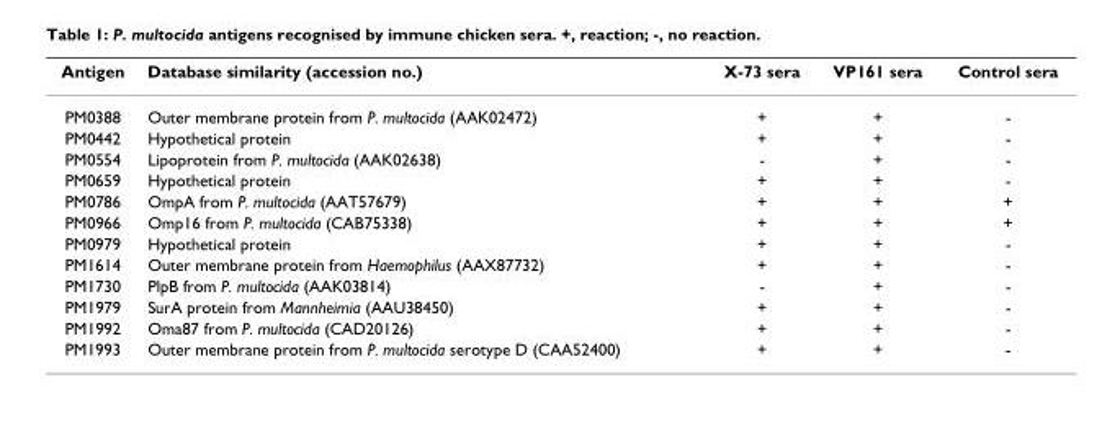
<table><thead><tr><td>Antigen</td><td>Database similarity (accession no.)</td><td>X-73 sera</td><td>VP161 sera</td><td>Control sera</td></tr></thead><tbody><tr><td>PM0388</td><td>Outer membrane protein from P. multocida (AAK02472)</td><td>+</td><td>+</td><td>-</td></tr><tr><td>PM0442</td><td>Hypothetical protein</td><td>+</td><td>+</td><td>-</td></tr><tr><td>PM0554</td><td>Lipoprotein from P. multocida (AAK02638)</td><td>-</td><td>+</td><td>-</td></tr><tr><td>PM0659</td><td>Hypothetical protein</td><td>+</td><td>+</td><td>-</td></tr><tr><td>PM0786</td><td>OmpA from P. multocida (AAT57679)</td><td>+</td><td>+</td><td>+</td></tr><tr><td>PM0966</td><td>Omp16 from P. multocida (CAB75338)</td><td>+</td><td>+</td><td>+</td></tr><tr><td>PM0979</td><td>Hypothetical protein</td><td>+</td><td>+</td><td>-</td></tr><tr><td>PM1614</td><td>Outer membrane protein from Haemophilus (AAX87732)</td><td>+</td><td>+</td><td>-</td></tr><tr><td>PM1730</td><td>PlpB from P. multocida (AAK03814)</td><td>-</td><td>+</td><td>-</td></tr><tr><td>PM1979</td><td>SurA protein from Mannheimia (AAU38450)</td><td>+</td><td>+</td><td>-</td></tr><tr><td>PM1992</td><td>Oma87 from P. multocida (CAD20126)</td><td>+</td><td>+</td><td>-</td></tr><tr><td>PM1993</td><td>Outer membrane protein from P. multocida serotype D (CAA52400)</td><td>+</td><td>+</td><td>-</td></tr></tbody></table>